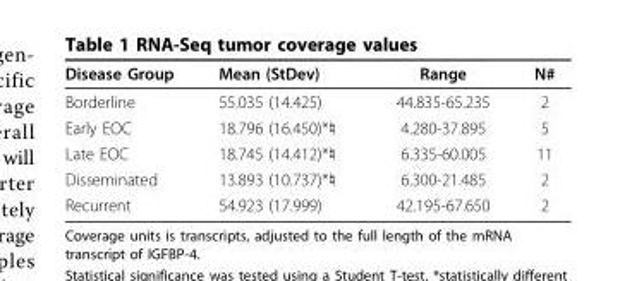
<table><thead><tr><td>Disease Group</td><td>Mean (StDev)</td><td>Range</td><td>N#</td></tr></thead><tbody><tr><td>Borderline</td><td>55.035 (14.425)</td><td>44.835-65.235</td><td>2</td></tr><tr><td>Early EOC</td><td>18.796 (16.450)*♮</td><td>4.280-37.895</td><td>5</td></tr><tr><td>Late EOC</td><td>18.745 (14.412)*♮</td><td>6.335-60.005</td><td>11</td></tr><tr><td>Disseminated</td><td>13.893 (10.737)*♮</td><td>6.300-21.485</td><td>2</td></tr><tr><td>Recurrent</td><td>54.923 (17.999)</td><td>42.195-67.650</td><td>2</td></tr></tbody></table>